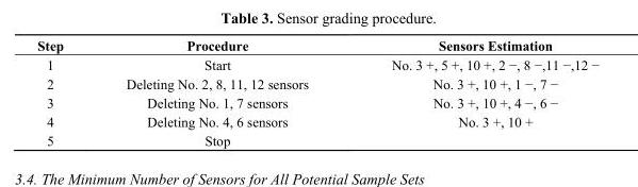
<table><thead><tr><td>Step</td><td>Procedure</td><td>Sensors Estimation</td></tr></thead><tbody><tr><td>1</td><td>Start</td><td>No. 3 +, 5 +, 10 +, 2 −, 8 −,11 −,12 −</td></tr><tr><td>2</td><td>Deleting No. 2, 8, 11, 12 sensors</td><td>No. 3 +, 10 +, 1 −, 7 −</td></tr><tr><td>3</td><td>Deleting No. 1, 7 sensors</td><td>No. 3 +, 10 +, 4 −, 6 −</td></tr><tr><td>4</td><td>Deleting No. 4, 6 sensors</td><td>No. 3 +, 10 +</td></tr><tr><td>5</td><td>Stop</td><td></td></tr></tbody></table>